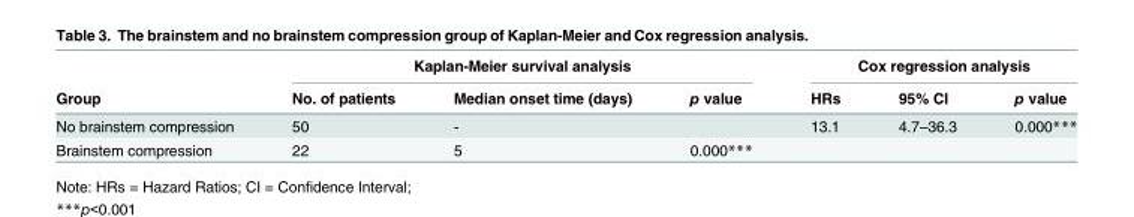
<table><thead><tr><td rowspan="2">Group</td><td colspan="3">Kaplan-Meier survival analysis</td><td colspan="3">Cox regression analysis</td></tr><tr><td>No. of patients</td><td>Median onset time (days)</td><td>p value</td><td>HRs</td><td>95% CI</td><td>p value</td></tr></thead><tbody><tr><td>No brainstem compression</td><td>50</td><td>-</td><td></td><td>13.1</td><td>4.7–36.3</td><td>0.000***</td></tr><tr><td>Brainstem compression</td><td>22</td><td>5</td><td>0.000***</td><td></td><td></td><td></td></tr></tbody></table>